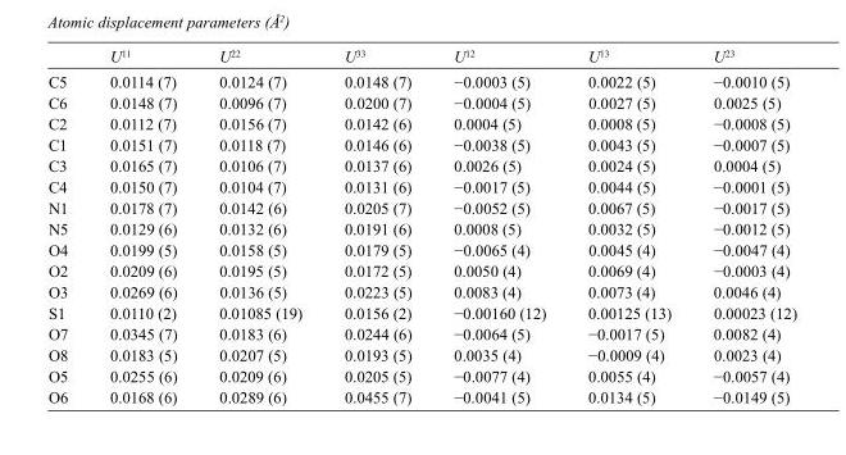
<table><thead><tr><td></td><td>U<sup>11</sup></td><td>U<sup>22</sup></td><td>U<sup>33</sup></td><td>U<sup>12</sup></td><td>U<sup>13</sup></td><td>U<sup>23</sup></td></tr></thead><tbody><tr><td>C5</td><td>0.0114 (7)</td><td>0.0124 (7)</td><td>0.0148 (7)</td><td>−0.0003 (5)</td><td>0.0022 (5)</td><td>−0.0010 (5)</td></tr><tr><td>C6</td><td>0.0148 (7)</td><td>0.0096 (7)</td><td>0.0200 (7)</td><td>−0.0004 (5)</td><td>0.0027 (5)</td><td>0.0025 (5)</td></tr><tr><td>C2</td><td>0.0112 (7)</td><td>0.0156 (7)</td><td>0.0142 (6)</td><td>0.0004 (5)</td><td>0.0008 (5)</td><td>−0.0008 (5)</td></tr><tr><td>C1</td><td>0.0151 (7)</td><td>0.0118 (7)</td><td>0.0146 (6)</td><td>−0.0038 (5)</td><td>0.0043 (5)</td><td>−0.0007 (5)</td></tr><tr><td>C3</td><td>0.0165 (7)</td><td>0.0106 (7)</td><td>0.0137 (6)</td><td>0.0026 (5)</td><td>0.0024 (5)</td><td>0.0004 (5)</td></tr><tr><td>C4</td><td>0.0150 (7)</td><td>0.0104 (7)</td><td>0.0131 (6)</td><td>−0.0017 (5)</td><td>0.0044 (5)</td><td>−0.0001 (5)</td></tr><tr><td>N1</td><td>0.0178 (7)</td><td>0.0142 (6)</td><td>0.0205 (7)</td><td>−0.0052 (5)</td><td>0.0067 (5)</td><td>−0.0017 (5)</td></tr><tr><td>N5</td><td>0.0129 (6)</td><td>0.0132 (6)</td><td>0.0191 (6)</td><td>0.0008 (5)</td><td>0.0032 (5)</td><td>−0.0012 (5)</td></tr><tr><td>O4</td><td>0.0199 (5)</td><td>0.0158 (5)</td><td>0.0179 (5)</td><td>−0.0065 (4)</td><td>0.0045 (4)</td><td>−0.0047 (4)</td></tr><tr><td>O2</td><td>0.0209 (6)</td><td>0.0195 (5)</td><td>0.0172 (5)</td><td>0.0050 (4)</td><td>0.0069 (4)</td><td>−0.0003 (4)</td></tr><tr><td>O3</td><td>0.0269 (6)</td><td>0.0136 (5)</td><td>0.0223 (5)</td><td>0.0083 (4)</td><td>0.0073 (4)</td><td>0.0046 (4)</td></tr><tr><td>S1</td><td>0.0110 (2)</td><td>0.01085 (19)</td><td>0.0156 (2)</td><td>−0.00160 (12)</td><td>0.00125 (13)</td><td>0.00023 (12)</td></tr><tr><td>O7</td><td>0.0345 (7)</td><td>0.0183 (6)</td><td>0.0244 (6)</td><td>−0.0064 (5)</td><td>−0.0017 (5)</td><td>0.0082 (4)</td></tr><tr><td>O8</td><td>0.0183 (5)</td><td>0.0207 (5)</td><td>0.0193 (5)</td><td>0.0035 (4)</td><td>−0.0009 (4)</td><td>0.0023 (4)</td></tr><tr><td>O5</td><td>0.0255 (6)</td><td>0.0209 (6)</td><td>0.0205 (5)</td><td>−0.0077 (4)</td><td>0.0055 (4)</td><td>−0.0057 (4)</td></tr><tr><td>O6</td><td>0.0168 (6)</td><td>0.0289 (6)</td><td>0.0455 (7)</td><td>−0.0041 (5)</td><td>0.0134 (5)</td><td>−0.0149 (5)</td></tr></tbody></table>